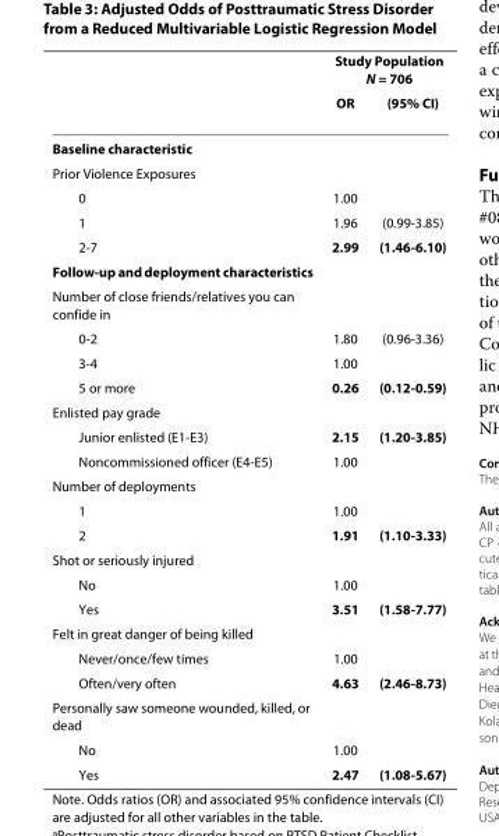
<table><thead><tr><td rowspan="2"></td><td colspan="2">Study Population N = 706</td></tr><tr><td>OR</td><td>(95% CI)</td></tr></thead><tbody><tr><td colspan="3">Baseline characteristic</td></tr><tr><td colspan="3">Prior Violence Exposures</td></tr><tr><td>0</td><td>1.00</td><td></td></tr><tr><td>1</td><td>1.96</td><td>(0.99-3.85)</td></tr><tr><td>2-7</td><td>2.99</td><td>(1.46-6.10)</td></tr><tr><td colspan="3">Follow-up and deployment characteristics</td></tr><tr><td colspan="3">Number of close friends/relatives you can confide in</td></tr><tr><td>0-2</td><td>1.80</td><td>(0.96-3.36)</td></tr><tr><td>3-4</td><td>1.00</td><td></td></tr><tr><td>5 or more</td><td>0.26</td><td>(0.12-0.59)</td></tr><tr><td colspan="3">Enlisted pay grade</td></tr><tr><td>Junior enlisted (E1-E3)</td><td>2.15</td><td>(1.20-3.85)</td></tr><tr><td>Noncommissioned officer (E4-E5)</td><td>1.00</td><td></td></tr><tr><td colspan="3">Number of deployments</td></tr><tr><td>1</td><td>1.00</td><td></td></tr><tr><td>2</td><td>1.91</td><td>(1.10-3.33)</td></tr><tr><td colspan="3">Shot or seriously injured</td></tr><tr><td>No</td><td>1.00</td><td></td></tr><tr><td>Yes</td><td>3.51</td><td>(1.58-7.77)</td></tr><tr><td colspan="3">Felt in great danger of being killed</td></tr><tr><td>Never/once/few times</td><td>1.00</td><td></td></tr><tr><td>Often/very often</td><td>4.63</td><td>(2.46-8.73)</td></tr><tr><td colspan="3">Personally saw someone wounded, killed, or dead</td></tr><tr><td>No</td><td>1.00</td><td></td></tr><tr><td>Yes</td><td>2.47</td><td>(1.08-5.67)</td></tr></tbody></table>